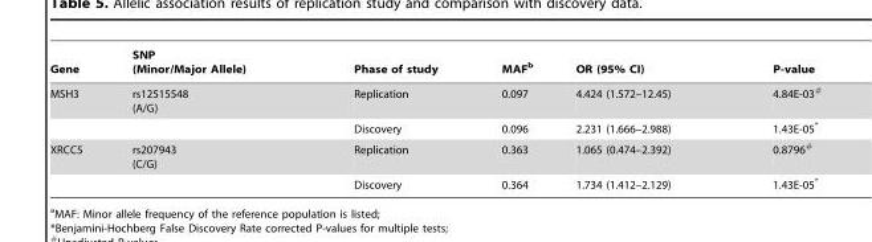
<table><thead><tr><td>Gene</td><td>SNP (Minor/Major Allele)</td><td>Phase of study</td><td>MAF<sup>b</sup></td><td>OR (95% CI)</td><td>P-value</td></tr></thead><tbody><tr><td rowspan="2">MSH3</td><td>rs12515548 (A/G)</td><td>Replication</td><td>0.097</td><td>4.424 (1.572–12.45)</td><td>4.84E-03#</td></tr><tr><td></td><td>Discovery</td><td>0.096</td><td>2.231 (1.666–2.988)</td><td>1.43E-05*</td></tr><tr><td rowspan="2">XRCC5</td><td>rs207943 (C/G)</td><td>Replication</td><td>0.363</td><td>1.065 (0.474–2.392)</td><td>0.8796#</td></tr><tr><td></td><td>Discovery</td><td>0.364</td><td>1.734 (1.412–2.129)</td><td>1.43E-05*</td></tr></tbody></table>